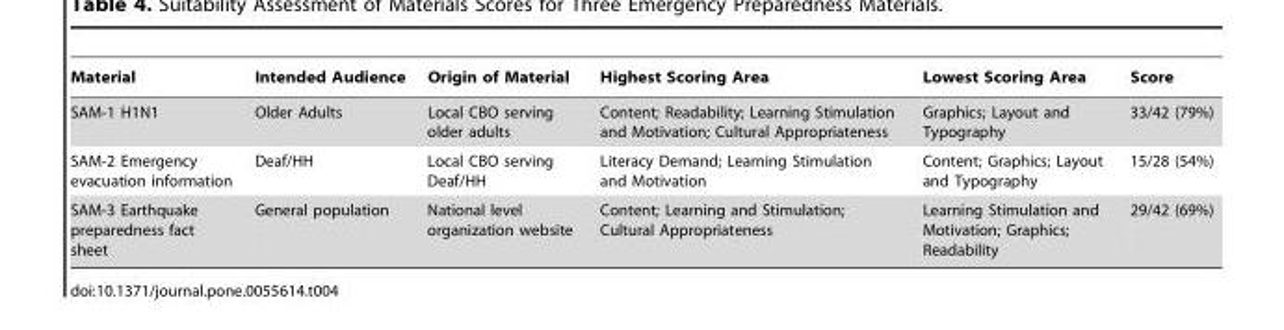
<table><thead><tr><td>Material</td><td>Intended Audience</td><td>Origin of Material</td><td>Highest Scoring Area</td><td>Lowest Scoring Area</td><td>Score</td></tr></thead><tbody><tr><td>SAM-1 H1N1</td><td>Older Adults</td><td>Local CBO serving older adults</td><td>Content; Readability; Learning Stimulation and Motivation; Cultural Appropriateness</td><td>Graphics; Layout and Typography</td><td>33/42 (79%)</td></tr><tr><td>SAM-2 Emergency evacuation information</td><td>Deaf/HH</td><td>Local CBO serving Deaf/HH</td><td>Literacy Demand; Learning Stimulation and Motivation</td><td>Content; Graphics; Layout and Typography</td><td>15/28 (54%)</td></tr><tr><td>SAM-3 Earthquake preparedness fact sheet</td><td>General population</td><td>National level organization website</td><td>Content; Learning and Stimulation; Cultural Appropriateness</td><td>Learning Stimulation and Motivation; Graphics; Readability</td><td>29/42 (69%)</td></tr></tbody></table>